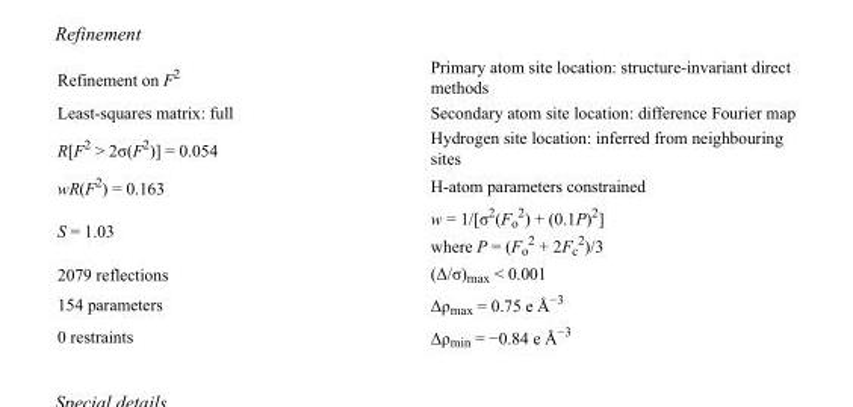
<table><tbody><tr><td>Refinement on F<sup>2</sup></td><td>Primary atom site location: structure-invariant direct methods</td></tr><tr><td>Least-squares matrix: full</td><td>Secondary atom site location: difference Fourier map</td></tr><tr><td>R[F<sup>2</sup> &gt; 2σ(F<sup>2</sup>)] = 0.054</td><td>Hydrogen site location: inferred from neighbouring sites</td></tr><tr><td>wR(F<sup>2</sup>) = 0.163</td><td>H-atom parameters constrained</td></tr><tr><td>S = 1.03</td><td>w = 1/[σ<sup>2</sup>(F<sub>o</sub> <sup>2</sup>) + (0.1P)<sup>2</sup>] where P = (F<sub>o</sub> <sup>2</sup> + 2F<sub>c</sub> <sup>2</sup>)/3</td></tr><tr><td>2079 reflections</td><td>(Δ/σ)<sub>max</sub> &lt; 0.001</td></tr><tr><td>154 parameters</td><td>Δρ<sub>max</sub> = 0.75 e Å<sup>−3</sup></td></tr><tr><td>0 restraints</td><td>Δρ<sub>min</sub> = −0.84 e Å<sup>−3</sup></td></tr></tbody></table>